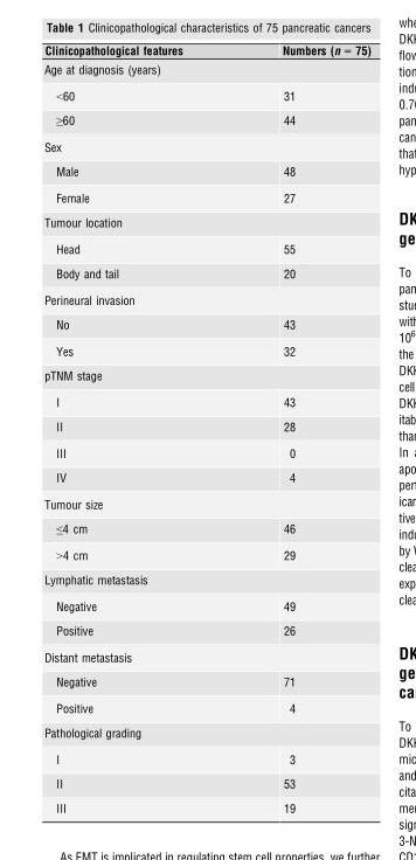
<table><thead><tr><td>Clinicopathological features</td><td>Numbers (n = 75)</td></tr></thead><tbody><tr><td colspan="2">Age at diagnosis (years)</td></tr><tr><td>&lt;60</td><td>31</td></tr><tr><td>≥60</td><td>44</td></tr><tr><td colspan="2">Sex</td></tr><tr><td>Male</td><td>48</td></tr><tr><td>Female</td><td>27</td></tr><tr><td colspan="2">Tumour location</td></tr><tr><td>Head</td><td>55</td></tr><tr><td>Body and tail</td><td>20</td></tr><tr><td colspan="2">Perineural invasion</td></tr><tr><td>No</td><td>43</td></tr><tr><td>Yes</td><td>32</td></tr><tr><td colspan="2">pTNM stage</td></tr><tr><td>I</td><td>43</td></tr><tr><td>II</td><td>28</td></tr><tr><td>III</td><td>0</td></tr><tr><td>IV</td><td>4</td></tr><tr><td colspan="2">Tumour size</td></tr><tr><td>≤4 cm</td><td>46</td></tr><tr><td>&gt;4 cm</td><td>29</td></tr><tr><td colspan="2">Lymphatic metastasis</td></tr><tr><td>Negative</td><td>49</td></tr><tr><td>Positive</td><td>26</td></tr><tr><td colspan="2">Distant metastasis</td></tr><tr><td>Negative</td><td>71</td></tr><tr><td>Positive</td><td>4</td></tr><tr><td colspan="2">Pathological grading</td></tr><tr><td>I</td><td>3</td></tr><tr><td>II</td><td>53</td></tr><tr><td>III</td><td>19</td></tr></tbody></table>